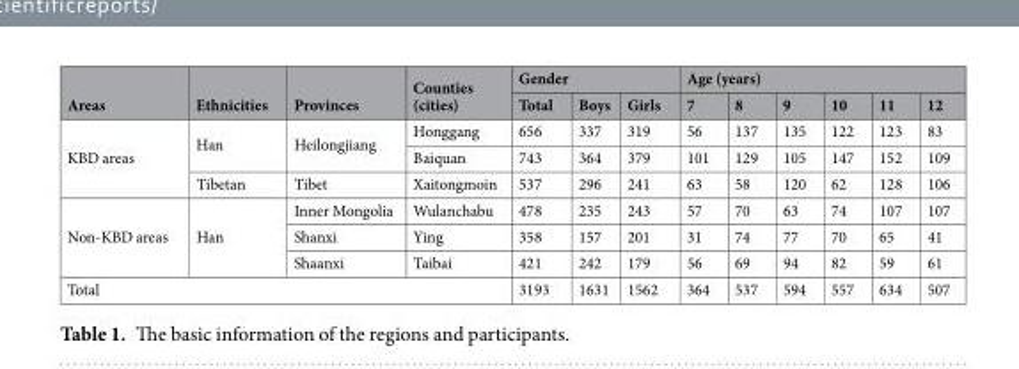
<table><thead><tr><td rowspan="2">Areas</td><td rowspan="2">Ethnicities</td><td rowspan="2">Provinces</td><td rowspan="2">Counties (cities)</td><td colspan="3">Gender</td><td colspan="6">Age (years)</td></tr><tr><td>Total</td><td>Boys</td><td>Girls</td><td>7</td><td>8</td><td>9</td><td>10</td><td>11</td><td>12</td></tr></thead><tbody><tr><td rowspan="3">KBD areas</td><td rowspan="2">Han</td><td rowspan="2">Heilongjiang</td><td>Honggang</td><td>656</td><td>337</td><td>319</td><td>56</td><td>137</td><td>135</td><td>122</td><td>123</td><td>83</td></tr><tr><td>Baiquan</td><td>743</td><td>364</td><td>379</td><td>101</td><td>129</td><td>105</td><td>147</td><td>152</td><td>109</td></tr><tr><td>Tibetan</td><td>Tibet</td><td>Xaitongmoin</td><td>537</td><td>296</td><td>241</td><td>63</td><td>58</td><td>120</td><td>62</td><td>128</td><td>106</td></tr><tr><td rowspan="3">Non-KBD areas</td><td rowspan="3">Han</td><td>Inner Mongolia</td><td>Wulanchabu</td><td>478</td><td>235</td><td>243</td><td>57</td><td>70</td><td>63</td><td>74</td><td>107</td><td>107</td></tr><tr><td>Shanxi</td><td>Ying</td><td>358</td><td>157</td><td>201</td><td>31</td><td>74</td><td>77</td><td>70</td><td>65</td><td>41</td></tr><tr><td>Shaanxi</td><td>Taibai</td><td>421</td><td>242</td><td>179</td><td>56</td><td>69</td><td>94</td><td>82</td><td>59</td><td>61</td></tr><tr><td colspan="4">Total</td><td>3193</td><td>1631</td><td>1562</td><td>364</td><td>537</td><td>594</td><td>557</td><td>634</td><td>507</td></tr></tbody></table>